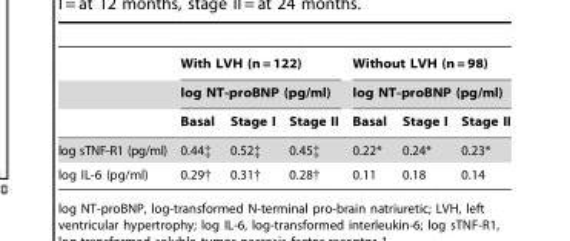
<table><thead><tr><td rowspan="3"></td><td rowspan="2" colspan="3">With LVH (n = 122) log NT-proBNP (pg/ml)</td><td rowspan="2" colspan="3">Without LVH (n = 98) log NT-proBNP (pg/ml)</td></tr><tr></tr><tr><td>Basal</td><td>Stage I</td><td>Stage II</td><td>Basal</td><td>Stage I</td><td>Stage II</td></tr></thead><tbody><tr><td>log sTNF-R1 (pg/ml)</td><td>0.44‡</td><td>0.52‡</td><td>0.45‡</td><td>0.22*</td><td>0.24*</td><td>0.23*</td></tr><tr><td>log IL-6 (pg/ml)</td><td>0.29†</td><td>0.31†</td><td>0.28†</td><td>0.11</td><td>0.18</td><td>0.14</td></tr></tbody></table>